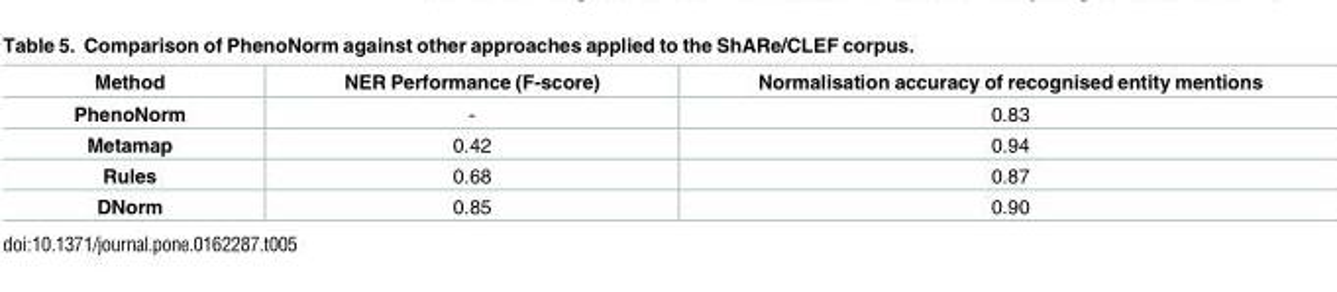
<table><thead><tr><td>Method</td><td>NER Performance (F-score)</td><td>Normalisation accuracy of recognised entity mentions</td></tr></thead><tbody><tr><td>PhenoNorm</td><td>-</td><td>0.83</td></tr><tr><td>Metamap</td><td>0.42</td><td>0.94</td></tr><tr><td>Rules</td><td>0.68</td><td>0.87</td></tr><tr><td>DNorm</td><td>0.85</td><td>0.90</td></tr></tbody></table>